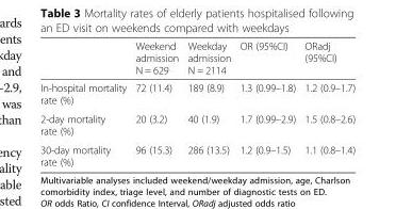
<table><thead><tr><td></td><td>Weekend admission N = 629</td><td>Weekday admission N = 2114</td><td>OR (95%CI)</td><td>ORadj (95%CI)</td></tr></thead><tbody><tr><td>In-hospital mortality rate (%)</td><td>72 (11.4)</td><td>189 (8.9)</td><td>1.3 (0.99–1.8)</td><td>1.2 (0.9–1.7)</td></tr><tr><td>2-day mortality rate (%)</td><td>20 (3.2)</td><td>40 (1.9)</td><td>1.7 (0.99–2.9)</td><td>1.5 (0.8–2.6)</td></tr><tr><td>30-day mortality rate (%)</td><td>96 (15.3)</td><td>286 (13.5)</td><td>1.2 (0.9–1.5)</td><td>1.1 (0.8–1.4)</td></tr></tbody></table>